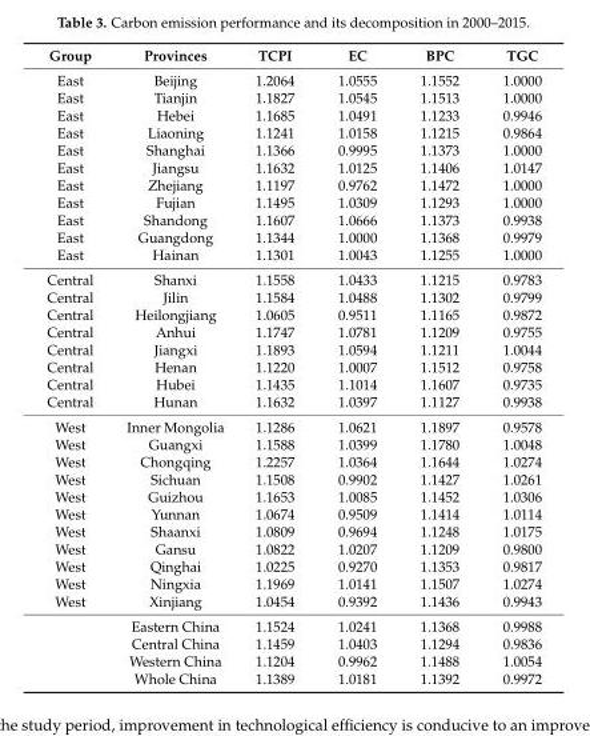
<table><thead><tr><td>Group</td><td>Provinces</td><td>TCPI</td><td>EC</td><td>BPC</td><td>TGC</td></tr></thead><tbody><tr><td>East</td><td>Beijing</td><td>1.2064</td><td>1.0555</td><td>1.1552</td><td>1.0000</td></tr><tr><td>East</td><td>Tianjin</td><td>1.1827</td><td>1.0545</td><td>1.1513</td><td>1.0000</td></tr><tr><td>East</td><td>Hebei</td><td>1.1685</td><td>1.0491</td><td>1.1233</td><td>0.9946</td></tr><tr><td>East</td><td>Liaoning</td><td>1.1241</td><td>1.0158</td><td>1.1215</td><td>0.9864</td></tr><tr><td>East</td><td>Shanghai</td><td>1.1366</td><td>0.9995</td><td>1.1373</td><td>1.0000</td></tr><tr><td>East</td><td>Jiangsu</td><td>1.1632</td><td>1.0125</td><td>1.1406</td><td>1.0147</td></tr><tr><td>East</td><td>Zhejiang</td><td>1.1197</td><td>0.9762</td><td>1.1472</td><td>1.0000</td></tr><tr><td>East</td><td>Fujian</td><td>1.1495</td><td>1.0309</td><td>1.1293</td><td>1.0000</td></tr><tr><td>East</td><td>Shandong</td><td>1.1607</td><td>1.0666</td><td>1.1373</td><td>0.9938</td></tr><tr><td>East</td><td>Guangdong</td><td>1.1344</td><td>1.0000</td><td>1.1368</td><td>0.9979</td></tr><tr><td>East</td><td>Hainan</td><td>1.1301</td><td>1.0043</td><td>1.1255</td><td>1.0000</td></tr><tr><td>Central</td><td>Shanxi</td><td>1.1558</td><td>1.0433</td><td>1.1215</td><td>0.9783</td></tr><tr><td>Central</td><td>Jilin</td><td>1.1584</td><td>1.0488</td><td>1.1302</td><td>0.9799</td></tr><tr><td>Central</td><td>Heilongjiang</td><td>1.0605</td><td>0.9511</td><td>1.1165</td><td>0.9872</td></tr><tr><td>Central</td><td>Anhui</td><td>1.1747</td><td>1.0781</td><td>1.1209</td><td>0.9755</td></tr><tr><td>Central</td><td>Jiangxi</td><td>1.1893</td><td>1.0594</td><td>1.1211</td><td>1.0044</td></tr><tr><td>Central</td><td>Henan</td><td>1.1220</td><td>1.0007</td><td>1.1512</td><td>0.9758</td></tr><tr><td>Central</td><td>Hubei</td><td>1.1435</td><td>1.1014</td><td>1.1607</td><td>0.9735</td></tr><tr><td>Central</td><td>Hunan</td><td>1.1632</td><td>1.0397</td><td>1.1127</td><td>0.9938</td></tr><tr><td>West</td><td>Inner Mongolia</td><td>1.1286</td><td>1.0621</td><td>1.1897</td><td>0.9578</td></tr><tr><td>West</td><td>Guangxi</td><td>1.1588</td><td>1.0399</td><td>1.1780</td><td>1.0048</td></tr><tr><td>West</td><td>Chongqing</td><td>1.2257</td><td>1.0364</td><td>1.1644</td><td>1.0274</td></tr><tr><td>West</td><td>Sichuan</td><td>1.1508</td><td>0.9902</td><td>1.1427</td><td>1.0261</td></tr><tr><td>West</td><td>Guizhou</td><td>1.1653</td><td>1.0085</td><td>1.1452</td><td>1.0306</td></tr><tr><td>West</td><td>Yunnan</td><td>1.0674</td><td>0.9509</td><td>1.1414</td><td>1.0114</td></tr><tr><td>West</td><td>Shaanxi</td><td>1.0809</td><td>0.9694</td><td>1.1248</td><td>1.0175</td></tr><tr><td>West</td><td>Gansu</td><td>1.0822</td><td>1.0207</td><td>1.1209</td><td>0.9800</td></tr><tr><td>West</td><td>Qinghai</td><td>1.0225</td><td>0.9270</td><td>1.1353</td><td>0.9817</td></tr><tr><td>West</td><td>Ningxia</td><td>1.1969</td><td>1.0141</td><td>1.1507</td><td>1.0274</td></tr><tr><td rowspan="5">West</td><td>Xinjiang</td><td>1.0454</td><td>0.9392</td><td>1.1436</td><td>0.9943</td></tr><tr><td>Eastern China</td><td>1.1524</td><td>1.0241</td><td>1.1368</td><td>0.9988</td></tr><tr><td>Central China</td><td>1.1459</td><td>1.0403</td><td>1.1294</td><td>0.9836</td></tr><tr><td>Western China</td><td>1.1204</td><td>0.9962</td><td>1.1488</td><td>1.0054</td></tr><tr><td>Whole China</td><td>1.1389</td><td>1.0181</td><td>1.1392</td><td>0.9972</td></tr></tbody></table>